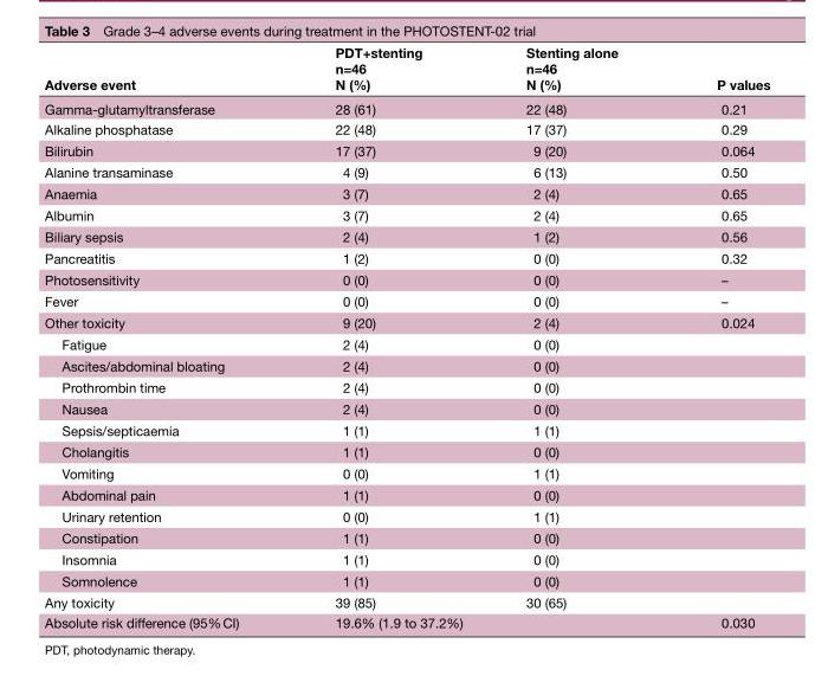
<table><thead><tr><td>Adverse event</td><td>PDT+stenting n=46 N (%)</td><td>Stenting alone n=46 N (%)</td><td>P values</td></tr></thead><tbody><tr><td>Gamma-glutamyltransferase</td><td>28 (61)</td><td>22 (48)</td><td>0.21</td></tr><tr><td>Alkaline phosphatase</td><td>22 (48)</td><td>17 (37)</td><td>0.29</td></tr><tr><td>Bilirubin</td><td>17 (37)</td><td>9 (20)</td><td>0.064</td></tr><tr><td>Alanine transaminase</td><td>4 (9)</td><td>6 (13)</td><td>0.50</td></tr><tr><td>Anaemia</td><td>3 (7)</td><td>2 (4)</td><td>0.65</td></tr><tr><td>Albumin</td><td>3 (7)</td><td>2 (4)</td><td>0.65</td></tr><tr><td>Biliary sepsis</td><td>2 (4)</td><td>1 (2)</td><td>0.56</td></tr><tr><td>Pancreatitis</td><td>1 (2)</td><td>0 (0)</td><td>0.32</td></tr><tr><td>Photosensitivity</td><td>0 (0)</td><td>0 (0)</td><td>–</td></tr><tr><td>Fever</td><td>0 (0)</td><td>0 (0)</td><td>–</td></tr><tr><td>Other toxicity</td><td>9 (20)</td><td>2 (4)</td><td>0.024</td></tr><tr><td>Fatigue</td><td>2 (4)</td><td>0 (0)</td><td></td></tr><tr><td>Ascites/abdominal bloating</td><td>2 (4)</td><td>0 (0)</td><td></td></tr><tr><td>Prothrombin time</td><td>2 (4)</td><td>0 (0)</td><td></td></tr><tr><td>Nausea</td><td>2 (4)</td><td>0 (0)</td><td></td></tr><tr><td>Sepsis/septicaemia</td><td>1 (1)</td><td>1 (1)</td><td></td></tr><tr><td>Cholangitis</td><td>1 (1)</td><td>0 (0)</td><td></td></tr><tr><td>Vomiting</td><td>0 (0)</td><td>1 (1)</td><td></td></tr><tr><td>Abdominal pain</td><td>1 (1)</td><td>0 (0)</td><td></td></tr><tr><td>Urinary retention</td><td>0 (0)</td><td>1 (1)</td><td></td></tr><tr><td>Constipation</td><td>1 (1)</td><td>0 (0)</td><td></td></tr><tr><td>Insomnia</td><td>1 (1)</td><td>0 (0)</td><td></td></tr><tr><td>Somnolence</td><td>1 (1)</td><td>0 (0)</td><td></td></tr><tr><td>Any toxicity</td><td>39 (85)</td><td>30 (65)</td><td></td></tr><tr><td>Absolute risk difference (95% CI)</td><td colspan="2">19.6% (1.9 to 37.2%)</td><td>0.030</td></tr></tbody></table>